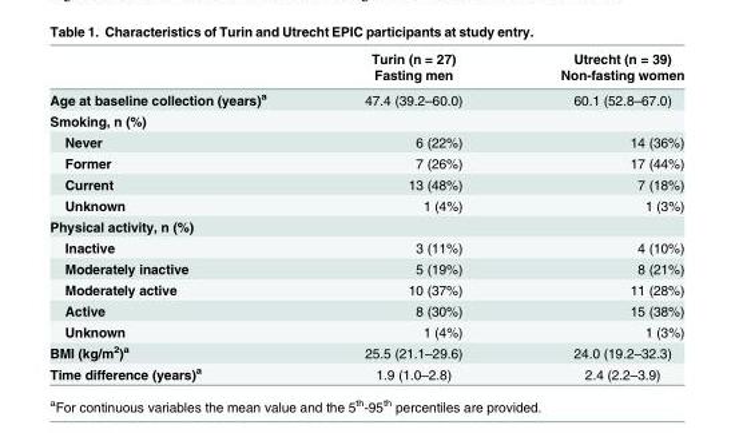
<table><thead><tr><td rowspan="2"></td><td rowspan="2">Turin (n = 27) Fasting men</td><td rowspan="2">Utrecht (n = 39) Non-fasting women</td></tr><tr></tr></thead><tbody><tr><td>Age at baseline collection (years)<sup>a</sup></td><td>47.4 (39.2–60.0)</td><td>60.1 (52.8–67.0)</td></tr><tr><td colspan="3">Smoking, n (%)</td></tr><tr><td>Never</td><td>6 (22%)</td><td>14 (36%)</td></tr><tr><td>Former</td><td>7 (26%)</td><td>17 (44%)</td></tr><tr><td>Current</td><td>13 (48%)</td><td>7 (18%)</td></tr><tr><td>Unknown</td><td>1 (4%)</td><td>1 (3%)</td></tr><tr><td colspan="3">Physical activity, n (%)</td></tr><tr><td>Inactive</td><td>3 (11%)</td><td>4 (10%)</td></tr><tr><td>Moderately inactive</td><td>5 (19%)</td><td>8 (21%)</td></tr><tr><td>Moderately active</td><td>10 (37%)</td><td>11 (28%)</td></tr><tr><td>Active</td><td>8 (30%)</td><td>15 (38%)</td></tr><tr><td>Unknown</td><td>1 (4%)</td><td>1 (3%)</td></tr><tr><td>BMI (kg/m<sup>2</sup>)<sup>a</sup></td><td>25.5 (21.1–29.6)</td><td>24.0 (19.2–32.3)</td></tr><tr><td>Time difference (years)<sup>a</sup></td><td>1.9 (1.0–2.8)</td><td>2.4 (2.2–3.9)</td></tr></tbody></table>